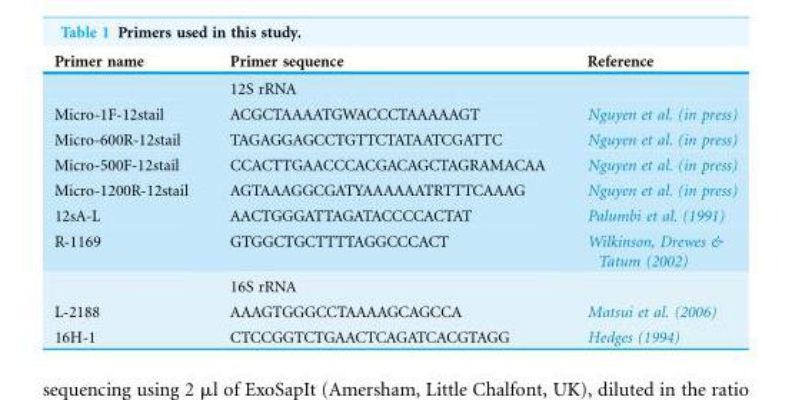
<table><thead><tr><td>Primer name</td><td>Primer sequence</td><td>Reference</td></tr></thead><tbody><tr><td></td><td>12S rRNA</td><td></td></tr><tr><td>Micro-1F-12stail</td><td>ACGCTAAAATGWACCCTAAAAAGT</td><td>Nguyen et al. (in press)</td></tr><tr><td>Micro-600R-12stail</td><td>TAGAGGAGCCTGTTCTATAATCGATTC</td><td>Nguyen et al. (in press)</td></tr><tr><td>Micro-500F-12stail</td><td>CCACTTGAACCCACGACAGCTAGRAMACAA</td><td>Nguyen et al. (in press)</td></tr><tr><td>Micro-1200R-12stail</td><td>AGTAAAGGCGATYAAAAAATRTTTCAAAG</td><td>Nguyen et al. (in press)</td></tr><tr><td>12sA-L</td><td>AACTGGGATTAGATACCCCACTAT</td><td>Palumbi et al. (1991)</td></tr><tr><td rowspan="2">R-1169</td><td>GTGGCTGCTTTTAGGCCCACT</td><td>Wilkinson, Drewes &amp; Tatum (2002)</td></tr><tr><td>16S rRNA</td><td></td></tr><tr><td>L-2188</td><td>AAAGTGGGCCTAAAAGCAGCCA</td><td>Matsui et al. (2006)</td></tr><tr><td>16H-1</td><td>CTCCGGTCTGAACTCAGATCACGTAGG</td><td>Hedges (1994)</td></tr></tbody></table>